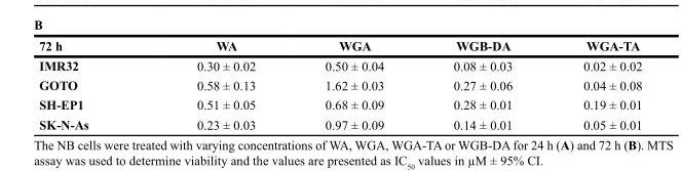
<table><thead><tr><td>72 h</td><td>WA</td><td>WGA</td><td>WGB-DA</td><td>WGA-TA</td></tr></thead><tbody><tr><td>IMR32</td><td>0.30 ± 0.02</td><td>0.50 ± 0.04</td><td>0.08 ± 0.03</td><td>0.02 ± 0.02</td></tr><tr><td>GOTO</td><td>0.58 ± 0.13</td><td>1.62 ± 0.03</td><td>0.27 ± 0.06</td><td>0.04 ± 0.08</td></tr><tr><td>SH-EP1</td><td>0.51 ± 0.05</td><td>0.68 ± 0.09</td><td>0.28 ± 0.01</td><td>0.19 ± 0.01</td></tr><tr><td>SK-N-As</td><td>0.23 ± 0.03</td><td>0.97 ± 0.09</td><td>0.14 ± 0.01</td><td>0.05 ± 0.01</td></tr></tbody></table>